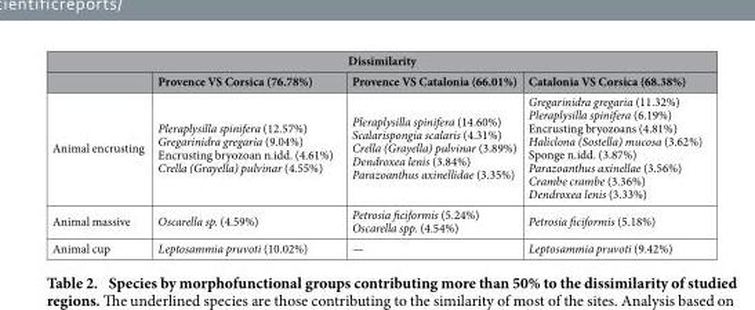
<table><thead><tr><td colspan="4">Dissimilarity</td></tr><tr><td></td><td>Provence VS Corsica (76.78%)</td><td>Provence VS Catalonia (66.01%)</td><td>Catalonia VS Corsica (68.38%)</td></tr></thead><tbody><tr><td>Animal encrusting</td><td>Pleraplysilla spinifera (12.57%) Gregarinidra gregaria (9.04%) Encrusting bryozoan n.idd. (4.61%) Crella (Grayella) pulvinar (4.55%)</td><td>Pleraplysilla spinifera (14.60%) Scalarispongia scalaris (4.31%) Crella (Grayella) pulvinar (3.89%) Dendroxea lenis (3.84%) Parazoanthus axinellidae (3.35%)</td><td>Gregarinidra gregaria (11.32%) Pleraplysilla spinifera (6.19%) Encrusting bryozoans (4.81%) Haliclona (Sostella) mucosa (3.62%) Sponge n.idd. (3.87%) Parazoanthus axinellae (3.56%) Crambe crambe (3.36%) Dendroxea lenis (3.33%)</td></tr><tr><td>Animal massive</td><td>Oscarella sp. (4.59%)</td><td>Petrosia ficiformis (5.24%) Oscarella spp. (4.54%)</td><td>Petrosia ficiformis (5.18%)</td></tr><tr><td>Animal cup</td><td>Leptosammia pruvoti (10.02%)</td><td>—</td><td>Leptosammia pruvoti (9.42%)</td></tr></tbody></table>